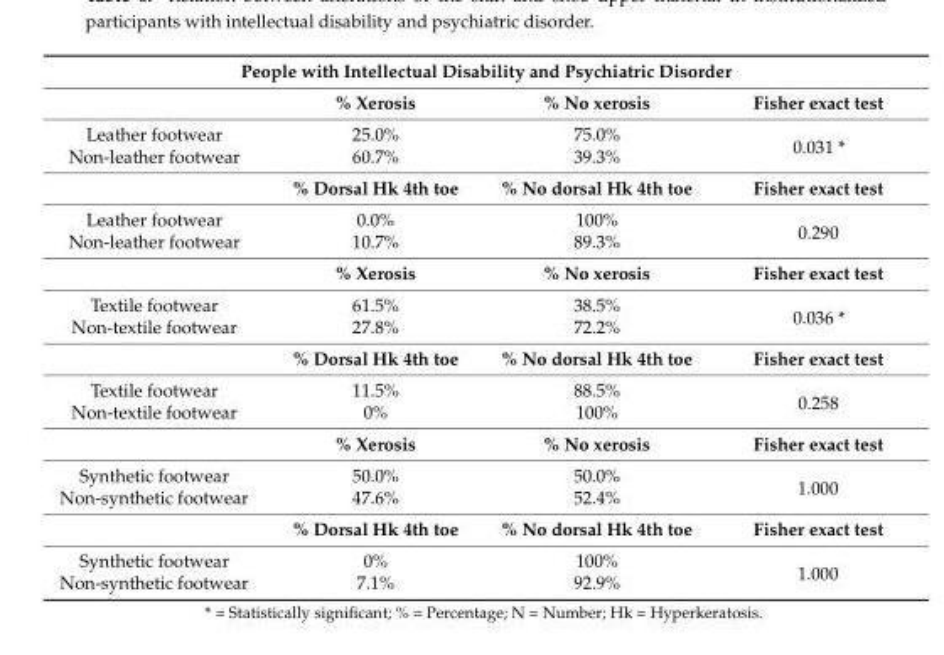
<table><thead><tr><td colspan="4">People with Intellectual Disability and Psychiatric Disorder</td></tr><tr><td></td><td>% Xerosis</td><td>% No xerosis</td><td>Fisher exact test</td></tr></thead><tbody><tr><td>Leather footwear</td><td>25.0%</td><td>75.0%</td><td rowspan="2">0.031 *</td></tr><tr><td rowspan="2">Non-leather footwear</td><td>60.7%</td><td>39.3%</td></tr><tr><td>% Dorsal Hk 4th toe</td><td>% No dorsal Hk 4th toe</td><td>Fisher exact test</td></tr><tr><td>Leather footwear</td><td>0.0%</td><td>100%</td><td rowspan="2">0.290</td></tr><tr><td rowspan="2">Non-leather footwear</td><td>10.7%</td><td>89.3%</td></tr><tr><td>% Xerosis</td><td>% No xerosis</td><td>Fisher exact test</td></tr><tr><td>Textile footwear</td><td>61.5%</td><td>38.5%</td><td rowspan="2">0.036 *</td></tr><tr><td rowspan="2">Non-textile footwear</td><td>27.8%</td><td>72.2%</td></tr><tr><td>% Dorsal Hk 4th toe</td><td>% No dorsal Hk 4th toe</td><td>Fisher exact test</td></tr><tr><td>Textile footwear</td><td>11.5%</td><td>88.5%</td><td rowspan="2">0.258</td></tr><tr><td rowspan="2">Non-textile footwear</td><td>0%</td><td>100%</td></tr><tr><td>% Xerosis</td><td>% No xerosis</td><td>Fisher exact test</td></tr><tr><td>Synthetic footwear</td><td>50.0%</td><td>50.0%</td><td rowspan="2">1.000</td></tr><tr><td rowspan="2">Non-synthetic footwear</td><td>47.6%</td><td>52.4%</td></tr><tr><td>% Dorsal Hk 4th toe</td><td>% No dorsal Hk 4th toe</td><td>Fisher exact test</td></tr><tr><td>Synthetic footwear</td><td>0%</td><td>100%</td><td rowspan="2">1.000</td></tr><tr><td>Non-synthetic footwear</td><td>7.1%</td><td>92.9%</td></tr></tbody></table>